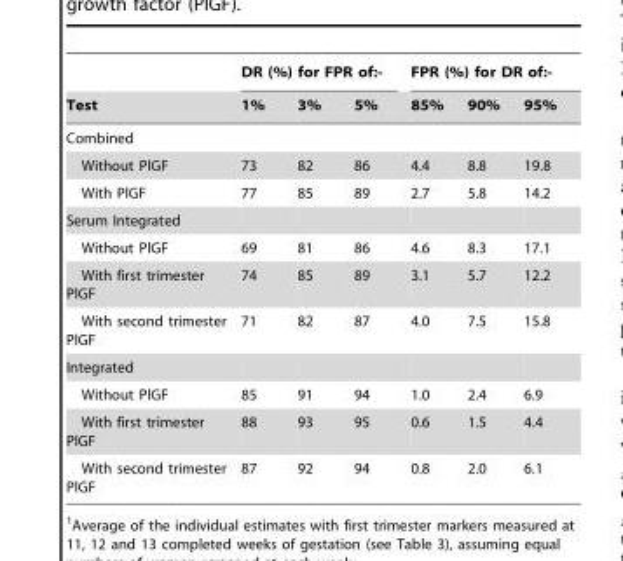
<table><thead><tr><td rowspan="2">Test</td><td colspan="3">DR (%) for FPR of:-</td><td colspan="3">FPR (%) for DR of:-</td></tr><tr><td>1%</td><td>3%</td><td>5%</td><td>85%</td><td>90%</td><td>95%</td></tr></thead><tbody><tr><td colspan="7">Combined</td></tr><tr><td>Without PlGF</td><td>73</td><td>82</td><td>86</td><td>4.4</td><td>8.8</td><td>19.8</td></tr><tr><td>With PlGF</td><td>77</td><td>85</td><td>89</td><td>2.7</td><td>5.8</td><td>14.2</td></tr><tr><td colspan="7">Serum Integrated</td></tr><tr><td>Without PlGF</td><td>69</td><td>81</td><td>86</td><td>4.6</td><td>8.3</td><td>17.1</td></tr><tr><td>With first trimester PlGF</td><td>74</td><td>85</td><td>89</td><td>3.1</td><td>5.7</td><td>12.2</td></tr><tr><td>With second trimester PlGF</td><td>71</td><td>82</td><td>87</td><td>4.0</td><td>7.5</td><td>15.8</td></tr><tr><td colspan="7">Integrated</td></tr><tr><td>Without PlGF</td><td>85</td><td>91</td><td>94</td><td>1.0</td><td>2.4</td><td>6.9</td></tr><tr><td>With first trimester PlGF</td><td>88</td><td>93</td><td>95</td><td>0.6</td><td>1.5</td><td>4.4</td></tr><tr><td>With second trimester PlGF</td><td>87</td><td>92</td><td>94</td><td>0.8</td><td>2.0</td><td>6.1</td></tr></tbody></table>